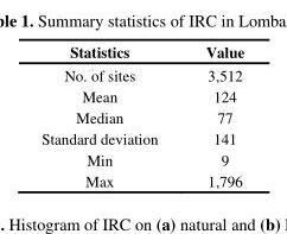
<table><thead><tr><td>Statistics</td><td>Value</td></tr></thead><tbody><tr><td>No. of sites</td><td>3,512</td></tr><tr><td>Mean</td><td>124</td></tr><tr><td>Median</td><td>77</td></tr><tr><td>Standard deviation</td><td>141</td></tr><tr><td>Min</td><td>9</td></tr><tr><td>Max</td><td>1,796</td></tr></tbody></table>